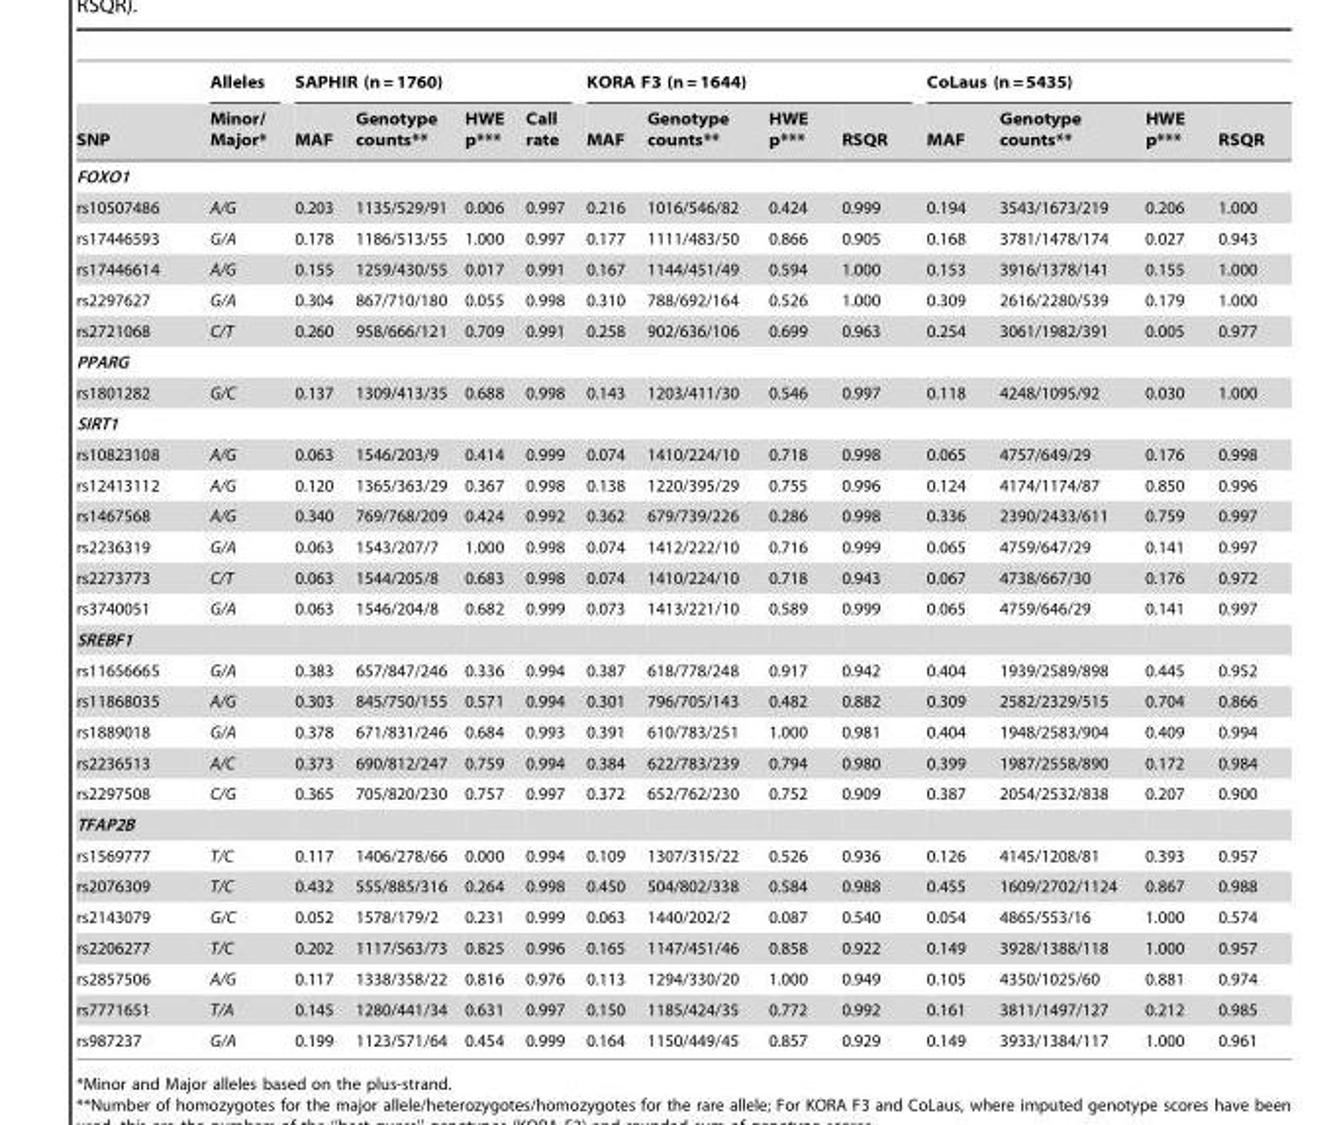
<table><thead><tr><td rowspan="2">SNP</td><td rowspan="2">Alleles Minor/ Major*</td><td colspan="4">SAPHIR (n = 1760)</td><td colspan="4">KORA F3 (n = 1644)</td><td colspan="4">CoLaus (n = 5435)</td></tr><tr><td>MAF</td><td>Genotype counts**</td><td>HWE p***</td><td>Call rate</td><td>MAF</td><td>Genotype counts**</td><td>HWE p***</td><td>RSQR</td><td>MAF</td><td>Genotype counts**</td><td>HWE p***</td><td>RSQR</td></tr></thead><tbody><tr><td colspan="14">FOXO1</td></tr><tr><td>rs10507486</td><td>A/G</td><td>0.203</td><td>1135/529/91</td><td>0.006</td><td>0.997</td><td>0.216</td><td>1016/546/82</td><td>0.424</td><td>0.999</td><td>0.194</td><td>3543/1673/219</td><td>0.206</td><td>1.000</td></tr><tr><td>rs17446593</td><td>G/A</td><td>0.178</td><td>1186/513/55</td><td>1.000</td><td>0.997</td><td>0.177</td><td>1111/483/50</td><td>0.866</td><td>0.905</td><td>0.168</td><td>3781/1478/174</td><td>0.027</td><td>0.943</td></tr><tr><td>rs17446614</td><td>A/G</td><td>0.155</td><td>1259/430/55</td><td>0.017</td><td>0.991</td><td>0.167</td><td>1144/451/49</td><td>0.594</td><td>1.000</td><td>0.153</td><td>3916/1378/141</td><td>0.155</td><td>1.000</td></tr><tr><td>rs2297627</td><td>G/A</td><td>0.304</td><td>867/710/180</td><td>0.055</td><td>0.998</td><td>0.310</td><td>788/692/164</td><td>0.526</td><td>1.000</td><td>0.309</td><td>2616/2280/539</td><td>0.179</td><td>1.000</td></tr><tr><td>rs2721068</td><td>C/T</td><td>0.260</td><td>958/666/121</td><td>0.709</td><td>0.991</td><td>0.258</td><td>902/636/106</td><td>0.699</td><td>0.963</td><td>0.254</td><td>3061/1982/391</td><td>0.005</td><td>0.977</td></tr><tr><td colspan="14">PPARG</td></tr><tr><td>rs1801282</td><td>G/C</td><td>0.137</td><td>1309/413/35</td><td>0.688</td><td>0.998</td><td>0.143</td><td>1203/411/30</td><td>0.546</td><td>0.997</td><td>0.118</td><td>4248/1095/92</td><td>0.030</td><td>1.000</td></tr><tr><td colspan="14">SIRT1</td></tr><tr><td>rs10823108</td><td>A/G</td><td>0.063</td><td>1546/203/9</td><td>0.414</td><td>0.999</td><td>0.074</td><td>1410/224/10</td><td>0.718</td><td>0.998</td><td>0.065</td><td>4757/649/29</td><td>0.176</td><td>0.998</td></tr><tr><td>rs12413112</td><td>A/G</td><td>0.120</td><td>1365/363/29</td><td>0.367</td><td>0.998</td><td>0.138</td><td>1220/395/29</td><td>0.755</td><td>0.996</td><td>0.124</td><td>4174/1174/87</td><td>0.850</td><td>0.996</td></tr><tr><td>rs1467568</td><td>A/G</td><td>0.340</td><td>769/768/209</td><td>0.424</td><td>0.992</td><td>0.362</td><td>679/739/226</td><td>0.286</td><td>0.998</td><td>0.336</td><td>2390/2433/611</td><td>0.759</td><td>0.997</td></tr><tr><td>rs2236319</td><td>G/A</td><td>0.063</td><td>1543/207/7</td><td>1.000</td><td>0.998</td><td>0.074</td><td>1412/222/10</td><td>0.716</td><td>0.999</td><td>0.065</td><td>4759/647/29</td><td>0.141</td><td>0.997</td></tr><tr><td>rs2273773</td><td>C/T</td><td>0.063</td><td>1544/205/8</td><td>0.683</td><td>0.998</td><td>0.074</td><td>1410/224/10</td><td>0.718</td><td>0.943</td><td>0.067</td><td>4738/667/30</td><td>0.176</td><td>0.972</td></tr><tr><td>rs3740051</td><td>G/A</td><td>0.063</td><td>1546/204/8</td><td>0.682</td><td>0.999</td><td>0.073</td><td>1413/221/10</td><td>0.589</td><td>0.999</td><td>0.065</td><td>4759/646/29</td><td>0.141</td><td>0.997</td></tr><tr><td colspan="14">SREBF1</td></tr><tr><td>rs11656665</td><td>G/A</td><td>0.383</td><td>657/847/246</td><td>0.336</td><td>0.994</td><td>0.387</td><td>618/778/248</td><td>0.917</td><td>0.942</td><td>0.404</td><td>1939/2589/898</td><td>0.445</td><td>0.952</td></tr><tr><td>rs11868035</td><td>A/G</td><td>0.303</td><td>845/750/155</td><td>0.571</td><td>0.994</td><td>0.301</td><td>796/705/143</td><td>0.482</td><td>0.882</td><td>0.309</td><td>2582/2329/515</td><td>0.704</td><td>0.866</td></tr><tr><td>rs1889018</td><td>G/A</td><td>0.378</td><td>671/831/246</td><td>0.684</td><td>0.993</td><td>0.391</td><td>610/783/251</td><td>1.000</td><td>0.981</td><td>0.404</td><td>1948/2583/904</td><td>0.409</td><td>0.994</td></tr><tr><td>rs2236513</td><td>A/C</td><td>0.373</td><td>690/812/247</td><td>0.759</td><td>0.994</td><td>0.384</td><td>622/783/239</td><td>0.794</td><td>0.980</td><td>0.399</td><td>1987/2558/890</td><td>0.172</td><td>0.984</td></tr><tr><td>rs2297508</td><td>C/G</td><td>0.365</td><td>705/820/230</td><td>0.757</td><td>0.997</td><td>0.372</td><td>652/762/230</td><td>0.752</td><td>0.909</td><td>0.387</td><td>2054/2532/838</td><td>0.207</td><td>0.900</td></tr><tr><td colspan="14">TFAP2B</td></tr><tr><td>rs1569777</td><td>T/C</td><td>0.117</td><td>1406/278/66</td><td>0.000</td><td>0.994</td><td>0.109</td><td>1307/315/22</td><td>0.526</td><td>0.936</td><td>0.126</td><td>4145/1208/81</td><td>0.393</td><td>0.957</td></tr><tr><td>rs2076309</td><td>T/C</td><td>0.432</td><td>555/885/316</td><td>0.264</td><td>0.998</td><td>0.450</td><td>504/802/338</td><td>0.584</td><td>0.988</td><td>0.455</td><td>1609/2702/1124</td><td>0.867</td><td>0.988</td></tr><tr><td>rs2143079</td><td>G/C</td><td>0.052</td><td>1578/179/2</td><td>0.231</td><td>0.999</td><td>0.063</td><td>1440/202/2</td><td>0.087</td><td>0.540</td><td>0.054</td><td>4865/553/16</td><td>1.000</td><td>0.574</td></tr><tr><td>rs2206277</td><td>T/C</td><td>0.202</td><td>1117/563/73</td><td>0.825</td><td>0.996</td><td>0.165</td><td>1147/451/46</td><td>0.858</td><td>0.922</td><td>0.149</td><td>3928/1388/118</td><td>1.000</td><td>0.957</td></tr><tr><td>rs2857506</td><td>A/G</td><td>0.117</td><td>1338/358/22</td><td>0.816</td><td>0.976</td><td>0.113</td><td>1294/330/20</td><td>1.000</td><td>0.949</td><td>0.105</td><td>4350/1025/60</td><td>0.881</td><td>0.974</td></tr><tr><td>rs7771651</td><td>T/A</td><td>0.145</td><td>1280/441/34</td><td>0.631</td><td>0.997</td><td>0.150</td><td>1185/424/35</td><td>0.772</td><td>0.992</td><td>0.161</td><td>3811/1497/127</td><td>0.212</td><td>0.985</td></tr><tr><td>rs987237</td><td>G/A</td><td>0.199</td><td>1123/571/64</td><td>0.454</td><td>0.999</td><td>0.164</td><td>1150/449/45</td><td>0.857</td><td>0.929</td><td>0.149</td><td>3933/1384/117</td><td>1.000</td><td>0.961</td></tr></tbody></table>